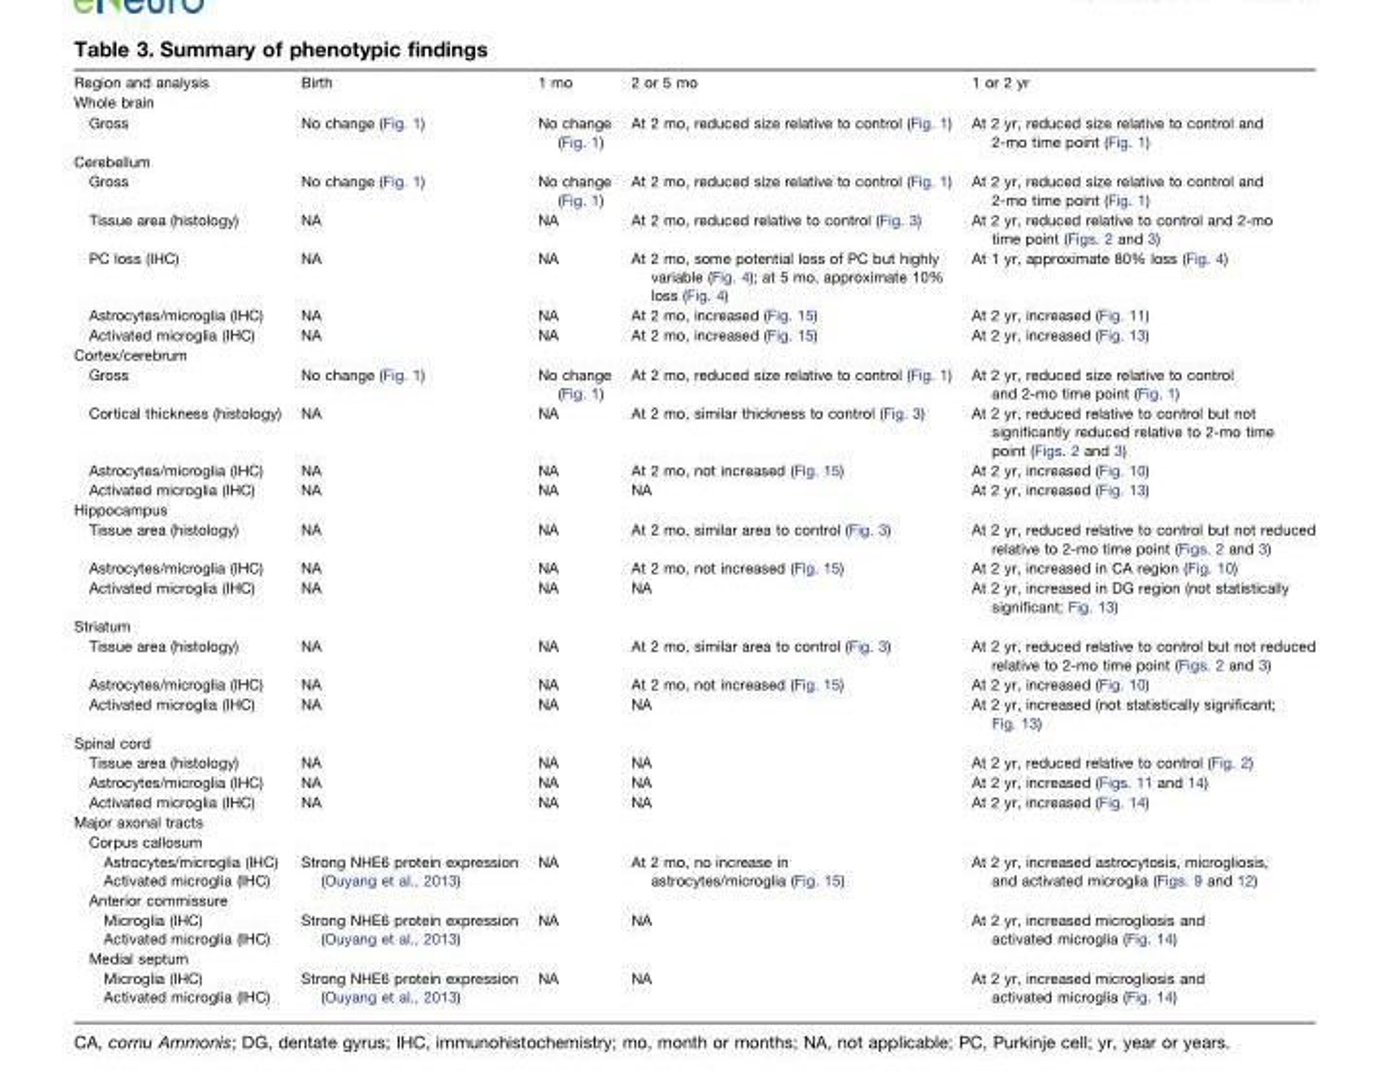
<table><thead><tr><td>Region and analysis</td><td>Birth</td><td>1 mo</td><td>2 or 5 mo</td><td>1 or 2 yr</td></tr></thead><tbody><tr><td colspan="5">Whole brain</td></tr><tr><td>Gross</td><td>No change (Fig. 1)</td><td>No change (Fig. 1)</td><td>At 2 mo, reduced size relative to control (Fig. 1)</td><td>At 2 yr, reduced size relative to control and 2-mo time point (Fig. 1)</td></tr><tr><td colspan="5">Cerebellum</td></tr><tr><td>Gross</td><td>No change (Fig. 1)</td><td>No change (Fig. 1)</td><td>At 2 mo, reduced size relative to control (Fig. 1)</td><td>At 2 yr, reduced size relative to control and 2-mo time point (Fig. 1)</td></tr><tr><td>Tissue area (histology)</td><td>NA</td><td>NA</td><td>At 2 mo, reduced relative to control (Fig. 3)</td><td>At 2 yr, reduced relative to control and 2-mo time point (Figs. 2 and 3)</td></tr><tr><td>PC loss (IHC)</td><td>NA</td><td>NA</td><td>At 2 mo, some potential loss of PC but highly variable (Fig. 4); at 5 mo, approximate 10% loss (Fig. 4)</td><td>At 1 yr, approximate 80% loss (Fig. 4)</td></tr><tr><td>Astrocytes/microglia (IHC)</td><td>NA</td><td>NA</td><td>At 2 mo, increased (Fig. 15)</td><td>At 2 yr, increased (Fig. 11)</td></tr><tr><td>Activated microglia (IHC)</td><td>NA</td><td>NA</td><td>At 2 mo, increased (Fig. 15)</td><td>At 2 yr, increased (Fig. 13)</td></tr><tr><td colspan="5">Cortex/cerebrum</td></tr><tr><td>Gross</td><td>No change (Fig. 1)</td><td>No change (Fig. 1)</td><td>At 2 mo, reduced size relative to control (Fig. 1)</td><td>At 2 yr, reduced size relative to control and 2-mo time point (Fig. 1)</td></tr><tr><td>Cortical thickness (histology)</td><td>NA</td><td>NA</td><td>At 2 mo, similar thickness to control (Fig. 3)</td><td>At 2 yr, reduced relative to control but not significantly reduced relative to 2-mo time point (Figs. 2 and 3)</td></tr><tr><td>Astrocytes/microglia (IHC)</td><td>NA</td><td>NA</td><td>At 2 mo, not increased (Fig. 15)</td><td>At 2 yr, increased (Fig. 10)</td></tr><tr><td>Activated microglia (IHC)</td><td>NA</td><td>NA</td><td>NA</td><td>At 2 yr, increased (Fig. 13)</td></tr><tr><td colspan="5">Hippocampus</td></tr><tr><td>Tissue area (histology)</td><td>NA</td><td>NA</td><td>At 2 mo, similar area to control (Fig. 3)</td><td>At 2 yr, reduced relative to control but not reduced relative to 2-mo time point (Figs. 2 and 3)</td></tr><tr><td>Astrocytes/microglia (IHC)</td><td>NA</td><td>NA</td><td>At 2 mo, not increased (Fig. 15)</td><td>At 2 yr, increased in CA region (Fig. 10)</td></tr><tr><td>Activated microglia (IHC)</td><td>NA</td><td>NA</td><td>NA</td><td>At 2 yr, increased in DG region (not statistically significant; Fig. 13)</td></tr><tr><td colspan="5">Striatum</td></tr><tr><td>Tissue area (histology)</td><td>NA</td><td>NA</td><td>At 2 mo, similar area to control (Fig. 3)</td><td>At 2 yr, reduced relative to control but not reduced relative to 2-mo time point (Figs. 2 and 3)</td></tr><tr><td>Astrocytes/microglia (IHC)</td><td>NA</td><td>NA</td><td>At 2 mo, not increased (Fig. 15)</td><td>At 2 yr, increased (Fig. 10)</td></tr><tr><td>Activated microglia (IHC)</td><td>NA</td><td>NA</td><td>NA</td><td>At 2 yr, increased (not statistically significant; Fig. 13)</td></tr><tr><td colspan="5">Spinal cord</td></tr><tr><td>Tissue area (histology)</td><td>NA</td><td>NA</td><td>NA</td><td>At 2 yr, reduced relative to control (Fig. 2)</td></tr><tr><td>Astrocytes/microglia (IHC)</td><td>NA</td><td>NA</td><td>NA</td><td>At 2 yr, increased (Figs. 11 and 14)</td></tr><tr><td>Activated microglia (IHC)</td><td>NA</td><td>NA</td><td>NA</td><td>At 2 yr, increased (Fig. 14)</td></tr><tr><td colspan="5">Major axonal tracts</td></tr><tr><td colspan="5">Corpus callosum</td></tr><tr><td>Astrocytes/microglia (IHC) Activated microglia (IHC)</td><td>Strong NHE6 protein expression (Ouyang et al., 2013)</td><td>NA</td><td>At 2 mo, no increase in astrocytes/microglia (Fig. 15)</td><td>At 2 yr, increased astrocytosis, microgliosis, and activated microglia (Figs. 9 and 12)</td></tr><tr><td colspan="5">Anterior commissure</td></tr><tr><td>Microglia (IHC) Activated microglia (IHC)</td><td>Strong NHE6 protein expression (Ouyang et al., 2013)</td><td>NA</td><td>NA</td><td>At 2 yr, increased microgliosis and activated microglia (Fig. 14)</td></tr><tr><td colspan="5">Medial septum</td></tr><tr><td>Microglia (IHC) Activated microglia (IHC)</td><td>Strong NHE6 protein expression (Ouyang et al., 2013)</td><td>NA</td><td>NA</td><td>At 2 yr, increased microgliosis and activated microglia (Fig. 14)</td></tr></tbody></table>